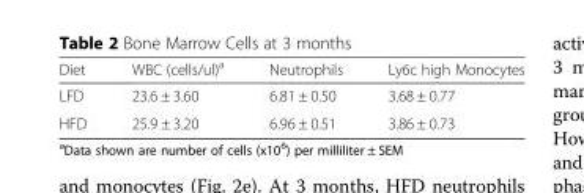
<table><thead><tr><td>Diet</td><td>WBC (cells/ul)<sup>a</sup></td><td>Neutrophils</td><td>Ly6c high Monocytes</td></tr></thead><tbody><tr><td>LFD</td><td>23.6 ± 3.60</td><td>6.81 ± 0.50</td><td>3.68 ± 0.77</td></tr><tr><td>HFD</td><td>25.9 ± 3.20</td><td>6.96 ± 0.51</td><td>3.86 ± 0.73</td></tr></tbody></table>